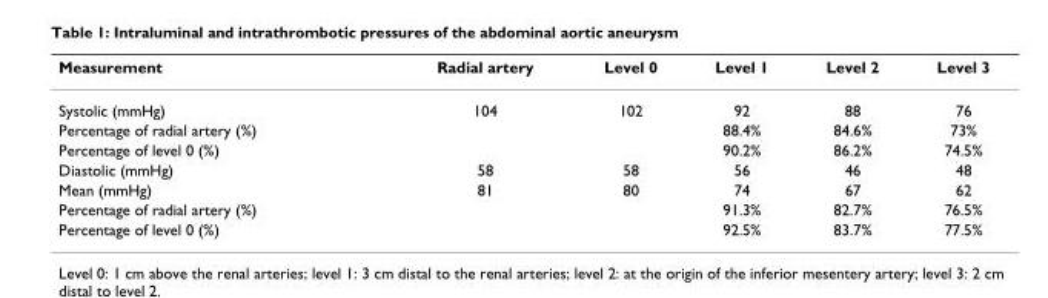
<table><thead><tr><td>Measurement</td><td>Radial artery</td><td>Level 0</td><td>Level 1</td><td>Level 2</td><td>Level 3</td></tr></thead><tbody><tr><td>Systolic (mmHg)</td><td>104</td><td>102</td><td>92</td><td>88</td><td>76</td></tr><tr><td>Percentage of radial artery (%)</td><td></td><td></td><td>88.4%</td><td>84.6%</td><td>73%</td></tr><tr><td>Percentage of level 0 (%)</td><td></td><td></td><td>90.2%</td><td>86.2%</td><td>74.5%</td></tr><tr><td>Diastolic (mmHg)</td><td>58</td><td>58</td><td>56</td><td>46</td><td>48</td></tr><tr><td>Mean (mmHg)</td><td>81</td><td>80</td><td>74</td><td>67</td><td>62</td></tr><tr><td>Percentage of radial artery (%)</td><td></td><td></td><td>91.3%</td><td>82.7%</td><td>76.5%</td></tr><tr><td>Percentage of level 0 (%)</td><td></td><td></td><td>92.5%</td><td>83.7%</td><td>77.5%</td></tr></tbody></table>